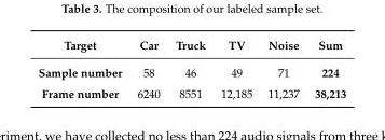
<table><thead><tr><td>Target</td><td>Car</td><td>Truck</td><td>TV</td><td>Noise</td><td>Sum</td></tr></thead><tbody><tr><td>Sample number</td><td>58</td><td>46</td><td>49</td><td>71</td><td>224</td></tr><tr><td>Frame number</td><td>6240</td><td>8551</td><td>12,185</td><td>11,237</td><td>38,213</td></tr></tbody></table>